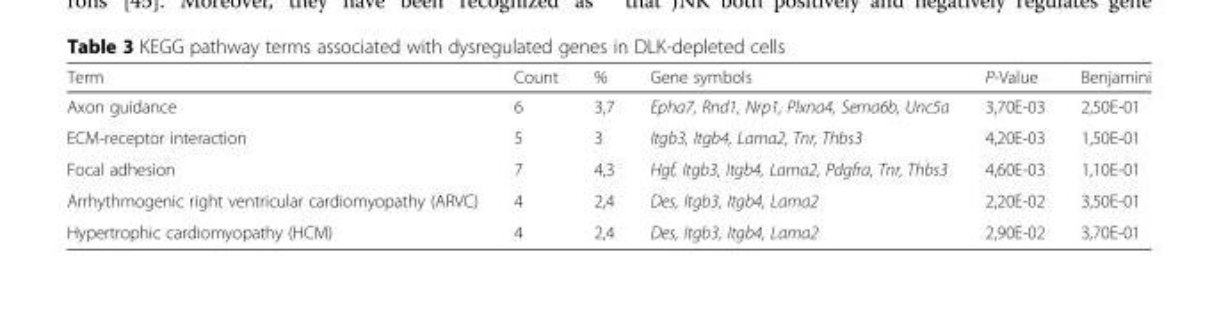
<table><thead><tr><td>Term</td><td>Count</td><td>%</td><td>Gene symbols</td><td>P-Value</td><td>Benjamini</td></tr></thead><tbody><tr><td>Axon guidance</td><td>6</td><td>3,7</td><td>Epha7, Rnd1, Nrp1, Plxna4, Sema6b, Unc5a</td><td>3,70E-03</td><td>2,50E-01</td></tr><tr><td>ECM-receptor interaction</td><td>5</td><td>3</td><td>Itgb3, Itgb4, Lama2, Tnr, Thbs3</td><td>4,20E-03</td><td>1,50E-01</td></tr><tr><td>Focal adhesion</td><td>7</td><td>4,3</td><td>Hgf, Itgb3, Itgb4, Lama2, Pdgfra, Tnr, Thbs3</td><td>4,60E-03</td><td>1,10E-01</td></tr><tr><td>Arrhythmogenic right ventricular cardiomyopathy (ARVC)</td><td>4</td><td>2,4</td><td>Des, Itgb3, Itgb4, Lama2</td><td>2,20E-02</td><td>3,50E-01</td></tr><tr><td>Hypertrophic cardiomyopathy (HCM)</td><td>4</td><td>2,4</td><td>Des, Itgb3, Itgb4, Lama2</td><td>2,90E-02</td><td>3,70E-01</td></tr></tbody></table>